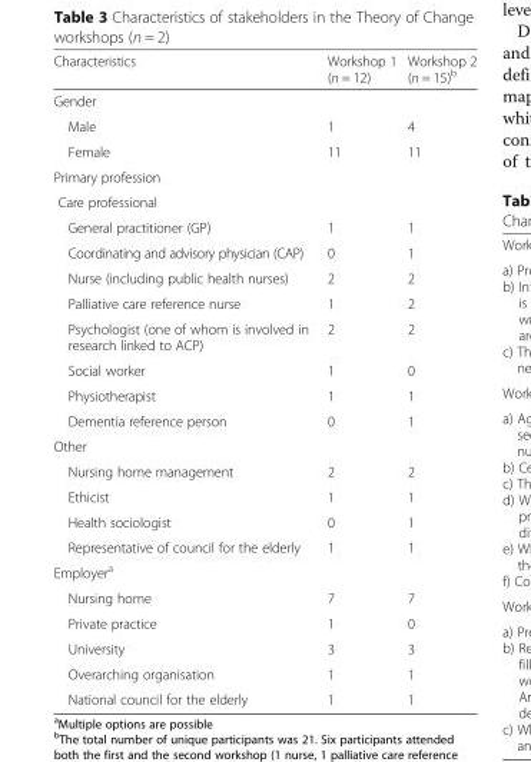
<table><thead><tr><td>Characteristics</td><td>Workshop 1 (n = 12)</td><td>Workshop 2 (n = 15)<sup>b</sup></td></tr></thead><tbody><tr><td colspan="3">Gender</td></tr><tr><td>Male</td><td>1</td><td>4</td></tr><tr><td>Female</td><td>11</td><td>11</td></tr><tr><td colspan="3">Primary profession</td></tr><tr><td colspan="3">Care professional</td></tr><tr><td>General practitioner (GP)</td><td>1</td><td>1</td></tr><tr><td>Coordinating and advisory physician (CAP)</td><td>0</td><td>1</td></tr><tr><td>Nurse (including public health nurses)</td><td>2</td><td>2</td></tr><tr><td>Palliative care reference nurse</td><td>1</td><td>2</td></tr><tr><td>Psychologist (one of whom is involved in research linked to ACP)</td><td>2</td><td>2</td></tr><tr><td>Social worker</td><td>1</td><td>0</td></tr><tr><td>Physiotherapist</td><td>1</td><td>1</td></tr><tr><td>Dementia reference person</td><td>0</td><td>1</td></tr><tr><td colspan="3">Other</td></tr><tr><td>Nursing home management</td><td>2</td><td>2</td></tr><tr><td>Ethicist</td><td>1</td><td>1</td></tr><tr><td>Health sociologist</td><td>0</td><td>1</td></tr><tr><td>Representative of council for the elderly</td><td>1</td><td>1</td></tr><tr><td colspan="3">Employer<sup>a</sup></td></tr><tr><td>Nursing home</td><td>7</td><td>7</td></tr><tr><td>Private practice</td><td>1</td><td>0</td></tr><tr><td>University</td><td>3</td><td>3</td></tr><tr><td>Overarching organisation</td><td>1</td><td>1</td></tr><tr><td>National council for the elderly</td><td>1</td><td>1</td></tr></tbody></table>